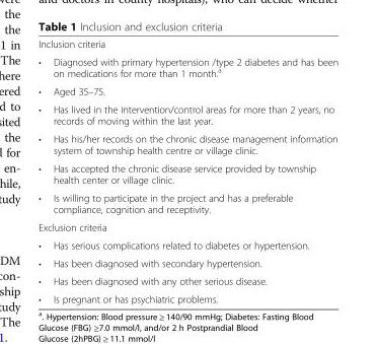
<table><tbody><tr><td colspan="2">Inclusion criteria</td></tr><tr><td>•</td><td>Diagnosed with primary hypertension /type 2 diabetes and has been on medications for more than 1 month.<sup>a</sup></td></tr><tr><td>•</td><td>Aged 35–75.</td></tr><tr><td>•</td><td>Has lived in the intervention/control areas for more than 2 years, no records of moving within the last year.</td></tr><tr><td>•</td><td>Has his/her records on the chronic disease management information system of township health centre or village clinic.</td></tr><tr><td>•</td><td>Has accepted the chronic disease service provided by township health center or village clinic.</td></tr><tr><td>•</td><td>Is willing to participate in the project and has a preferable compliance, cognition and receptivity.</td></tr><tr><td colspan="2">Exclusion criteria</td></tr><tr><td>•</td><td>Has serious complications related to diabetes or hypertension.</td></tr><tr><td>•</td><td>Has been diagnosed with secondary hypertension.</td></tr><tr><td>•</td><td>Has been diagnosed with any other serious disease.</td></tr><tr><td>•</td><td>Is pregnant or has psychiatric problems.</td></tr></tbody></table>